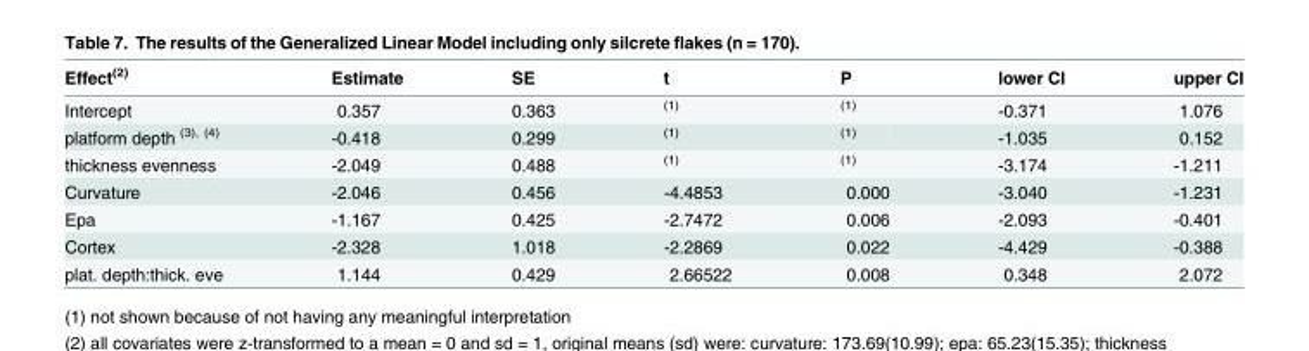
<table><thead><tr><td>Effect<sup>(2)</sup></td><td>Estimate</td><td>SE</td><td>t</td><td>P</td><td>lower CI</td><td>upper CI</td></tr></thead><tbody><tr><td>Intercept</td><td>0.357</td><td>0.363</td><td><sup>(1)</sup></td><td><sup>(1)</sup></td><td>-0.371</td><td>1.076</td></tr><tr><td>platform depth <sup>(3), (4)</sup></td><td>-0.418</td><td>0.299</td><td><sup>(1)</sup></td><td><sup>(1)</sup></td><td>-1.035</td><td>0.152</td></tr><tr><td>thickness evenness</td><td>-2.049</td><td>0.488</td><td><sup>(1)</sup></td><td><sup>(1)</sup></td><td>-3.174</td><td>-1.211</td></tr><tr><td>Curvature</td><td>-2.046</td><td>0.456</td><td>-4.4853</td><td>0.000</td><td>-3.040</td><td>-1.231</td></tr><tr><td>Epa</td><td>-1.167</td><td>0.425</td><td>-2.7472</td><td>0.006</td><td>-2.093</td><td>-0.401</td></tr><tr><td>Cortex</td><td>-2.328</td><td>1.018</td><td>-2.2869</td><td>0.022</td><td>-4.429</td><td>-0.388</td></tr><tr><td>plat. depth:thick. eve</td><td>1.144</td><td>0.429</td><td>2.66522</td><td>0.008</td><td>0.348</td><td>2.072</td></tr></tbody></table>